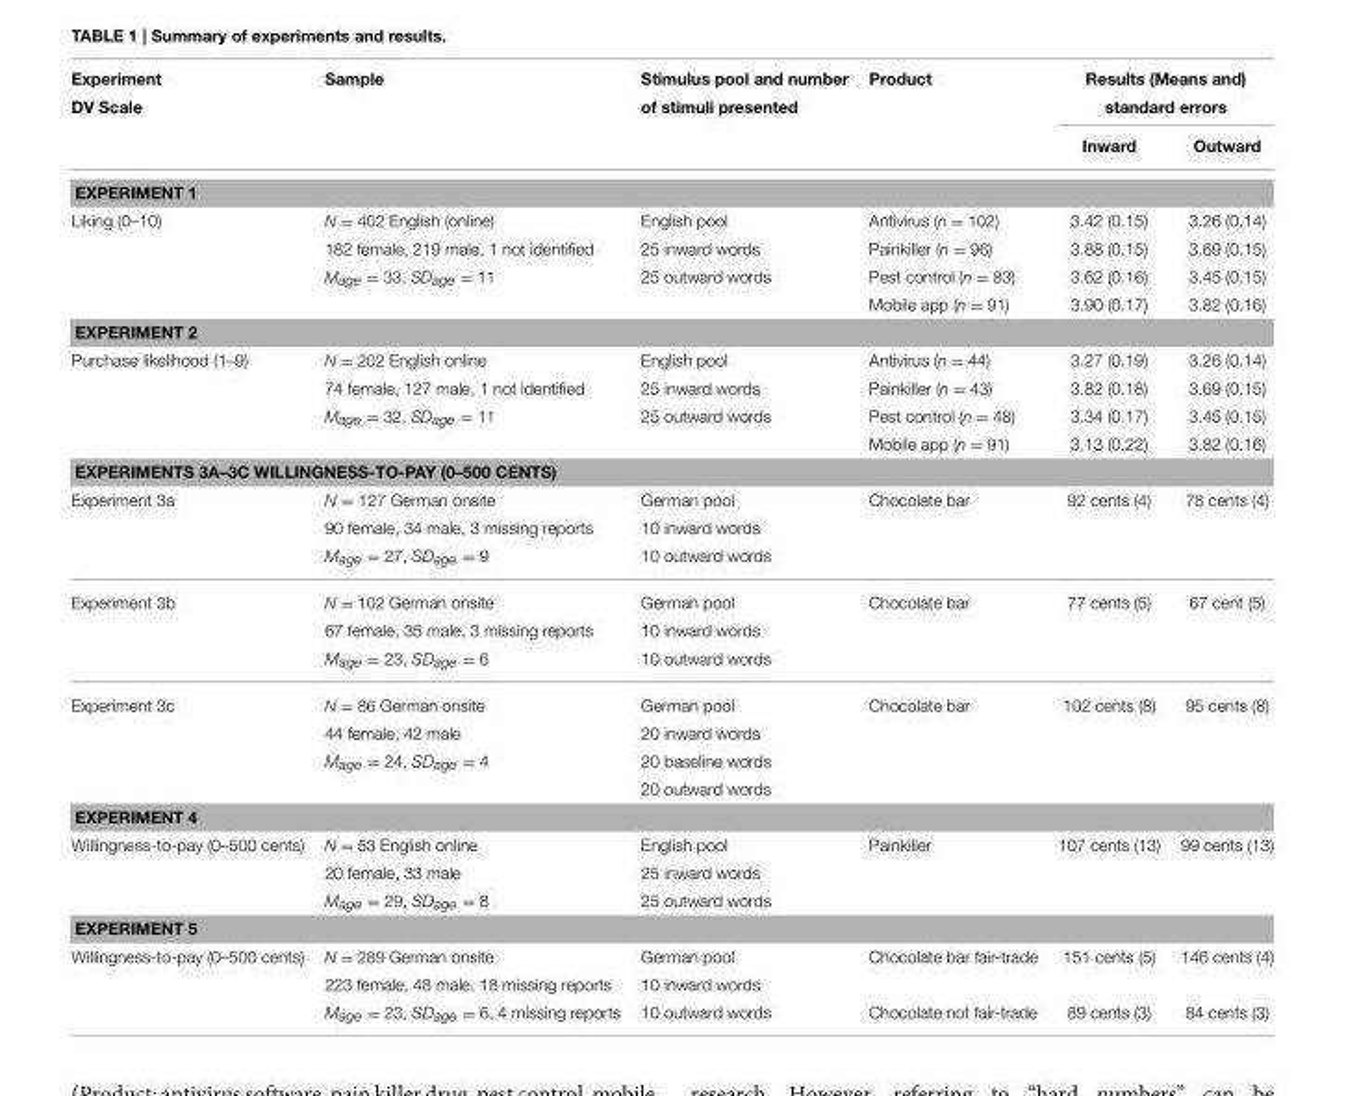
<table><thead><tr><td rowspan="2">Experiment DV Scale</td><td rowspan="2">Sample</td><td rowspan="2">Stimulus pool and number of stimuli presented</td><td rowspan="2">Product</td><td colspan="2">Results (Means and) standard errors</td></tr><tr><td>Inward</td><td>Outward</td></tr></thead><tbody><tr><td colspan="6">EXPERIMENT 1</td></tr><tr><td rowspan="4">Liking (0–10)</td><td>N = 402 English (online)</td><td>English pool</td><td>Antivirus (n = 102)</td><td>3.42 (0.15)</td><td>3.26 (0.14)</td></tr><tr><td>182 female, 219 male, 1 not identified</td><td>25 inward words</td><td>Painkiller (n = 96)</td><td>3.88 (0.15)</td><td>3.69 (0.15)</td></tr><tr><td>M<sub>age</sub> = 33, SD<sub>age</sub> = 11</td><td>25 outward words</td><td>Pest control (n = 83)</td><td>3.62 (0.16)</td><td>3.45 (0.15)</td></tr><tr><td></td><td></td><td>Mobile app (n = 91)</td><td>3.90 (0.17)</td><td>3.82 (0.16)</td></tr><tr><td colspan="6">EXPERIMENT 2</td></tr><tr><td rowspan="4">Purchase likelihood (1–9)</td><td>N = 202 English online</td><td>English pool</td><td>Antivirus (n = 44)</td><td>3.27 (0.19)</td><td>3.26 (0.14)</td></tr><tr><td>74 female, 127 male, 1 not identified</td><td>25 inward words</td><td>Painkiller (n = 43)</td><td>3.82 (0.18)</td><td>3.69 (0.15)</td></tr><tr><td>M<sub>age</sub> = 32, SD<sub>age</sub> = 11</td><td>25 outward words</td><td>Pest control (n = 48)</td><td>3.34 (0.17)</td><td>3.45 (0.15)</td></tr><tr><td></td><td></td><td>Mobile app (n = 91)</td><td>3.13 (0.22)</td><td>3.82 (0.16)</td></tr><tr><td colspan="6">EXPERIMENTS 3A–3C WILLINGNESS-TO-PAY (0–500 CENTS)</td></tr><tr><td rowspan="3">Experiment 3a</td><td>N = 127 German onsite</td><td>German pool</td><td>Chocolate bar</td><td>92 cents (4)</td><td>78 cents (4)</td></tr><tr><td>90 female, 34 male, 3 missing reports</td><td>10 inward words</td><td></td><td></td><td></td></tr><tr><td>M<sub>age</sub> = 27, SD<sub>age</sub> = 9</td><td>10 outward words</td><td></td><td></td><td></td></tr><tr><td rowspan="3">Experiment 3b</td><td>N = 102 German onsite</td><td>German pool</td><td>Chocolate bar</td><td>77 cents (5)</td><td>67 cent (5)</td></tr><tr><td>67 female, 35 male, 3 missing reports</td><td>10 inward words</td><td></td><td></td><td></td></tr><tr><td>M<sub>age</sub> = 23, SD<sub>age</sub> = 6</td><td>10 outward words</td><td></td><td></td><td></td></tr><tr><td rowspan="4">Experiment 3c</td><td>N = 86 German onsite</td><td>German pool</td><td>Chocolate bar</td><td>102 cents (8)</td><td>95 cents (8)</td></tr><tr><td>44 female, 42 male</td><td>20 inward words</td><td></td><td></td><td></td></tr><tr><td>M<sub>age</sub> = 24, SD<sub>age</sub> = 4</td><td>20 baseline words</td><td></td><td></td><td></td></tr><tr><td></td><td>20 outward words</td><td></td><td></td><td></td></tr><tr><td colspan="6">EXPERIMENT 4</td></tr><tr><td rowspan="3">Willingness-to-pay (0–500 cents)</td><td>N = 53 English online</td><td>English pool</td><td>Painkiller</td><td>107 cents (13)</td><td>99 cents (13)</td></tr><tr><td>20 female, 33 male</td><td>25 inward words</td><td></td><td></td><td></td></tr><tr><td>M<sub>age</sub> = 29, SD<sub>age</sub> = 8</td><td>25 outward words</td><td></td><td></td><td></td></tr><tr><td colspan="6">EXPERIMENT 5</td></tr><tr><td rowspan="3">Willingness-to-pay (0–500 cents)</td><td>N = 289 German onsite</td><td>German pool</td><td>Chocolate bar fair-trade</td><td>151 cents (5)</td><td>146 cents (4)</td></tr><tr><td>223 female, 48 male, 18 missing reports</td><td>10 inward words</td><td></td><td></td><td></td></tr><tr><td>M<sub>age</sub> = 23, SD<sub>age</sub> = 6, 4 missing reports</td><td>10 outward words</td><td>Chocolate not fair-trade</td><td>89 cents (3)</td><td>84 cents (3)</td></tr></tbody></table>